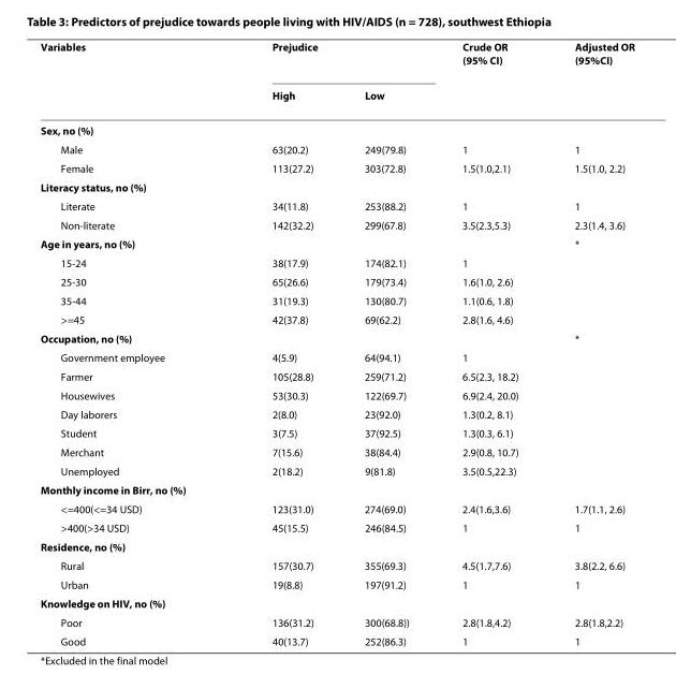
<table><thead><tr><td rowspan="2">Variables</td><td colspan="2">Prejudice</td><td rowspan="2">Crude OR (95% CI)</td><td rowspan="2">Adjusted OR (95%CI)</td></tr><tr><td>High</td><td>Low</td></tr></thead><tbody><tr><td colspan="5">Sex, no (%)</td></tr><tr><td>Male</td><td>63(20.2)</td><td>249(79.8)</td><td>1</td><td>1</td></tr><tr><td>Female</td><td>113(27.2)</td><td>303(72.8)</td><td>1.5(1.0,2.1)</td><td>1.5(1.0, 2.2)</td></tr><tr><td colspan="5">Literacy status, no (%)</td></tr><tr><td>Literate</td><td>34(11.8)</td><td>253(88.2)</td><td>1</td><td>1</td></tr><tr><td>Non-literate</td><td>142(32.2)</td><td>299(67.8)</td><td>3.5(2.3,5.3)</td><td>2.3(1.4, 3.6)</td></tr><tr><td>Age in years, no (%)</td><td></td><td></td><td></td><td>*</td></tr><tr><td>15-24</td><td>38(17.9)</td><td>174(82.1)</td><td>1</td><td></td></tr><tr><td>25-30</td><td>65(26.6)</td><td>179(73.4)</td><td>1.6(1.0, 2.6)</td><td></td></tr><tr><td>35-44</td><td>31(19.3)</td><td>130(80.7)</td><td>1.1(0.6, 1.8)</td><td></td></tr><tr><td>&gt;=45</td><td>42(37.8)</td><td>69(62.2)</td><td>2.8(1.6, 4.6)</td><td></td></tr><tr><td>Occupation, no (%)</td><td></td><td></td><td></td><td>*</td></tr><tr><td>Government employee</td><td>4(5.9)</td><td>64(94.1)</td><td>1</td><td></td></tr><tr><td>Farmer</td><td>105(28.8)</td><td>259(71.2)</td><td>6.5(2.3, 18.2)</td><td></td></tr><tr><td>Housewives</td><td>53(30.3)</td><td>122(69.7)</td><td>6.9(2.4, 20.0)</td><td></td></tr><tr><td>Day laborers</td><td>2(8.0)</td><td>23(92.0)</td><td>1.3(0.2, 8.1)</td><td></td></tr><tr><td>Student</td><td>3(7.5)</td><td>37(92.5)</td><td>1.3(0.3, 6.1)</td><td></td></tr><tr><td>Merchant</td><td>7(15.6)</td><td>38(84.4)</td><td>2.9(0.8, 10.7)</td><td></td></tr><tr><td>Unemployed</td><td>2(18.2)</td><td>9(81.8)</td><td>3.5(0.5,22.3)</td><td></td></tr><tr><td colspan="5">Monthly income in Birr, no (%)</td></tr><tr><td>&lt;=400(&lt;=34 USD)</td><td>123(31.0)</td><td>274(69.0)</td><td>2.4(1.6,3.6)</td><td>1.7(1.1, 2.6)</td></tr><tr><td>&gt;400(&gt;34 USD)</td><td>45(15.5)</td><td>246(84.5)</td><td>1</td><td>1</td></tr><tr><td colspan="5">Residence, no (%)</td></tr><tr><td>Rural</td><td>157(30.7)</td><td>355(69.3)</td><td>4.5(1.7,7.6)</td><td>3.8(2.2, 6.6)</td></tr><tr><td>Urban</td><td>19(8.8)</td><td>197(91.2)</td><td>1</td><td>1</td></tr><tr><td colspan="5">Knowledge on HIV, no (%)</td></tr><tr><td>Poor</td><td>136(31.2)</td><td>300(68.8))</td><td>2.8(1.8,4.2)</td><td>2.8(1.8,2.2)</td></tr><tr><td>Good</td><td>40(13.7)</td><td>252(86.3)</td><td>1</td><td>1</td></tr></tbody></table>